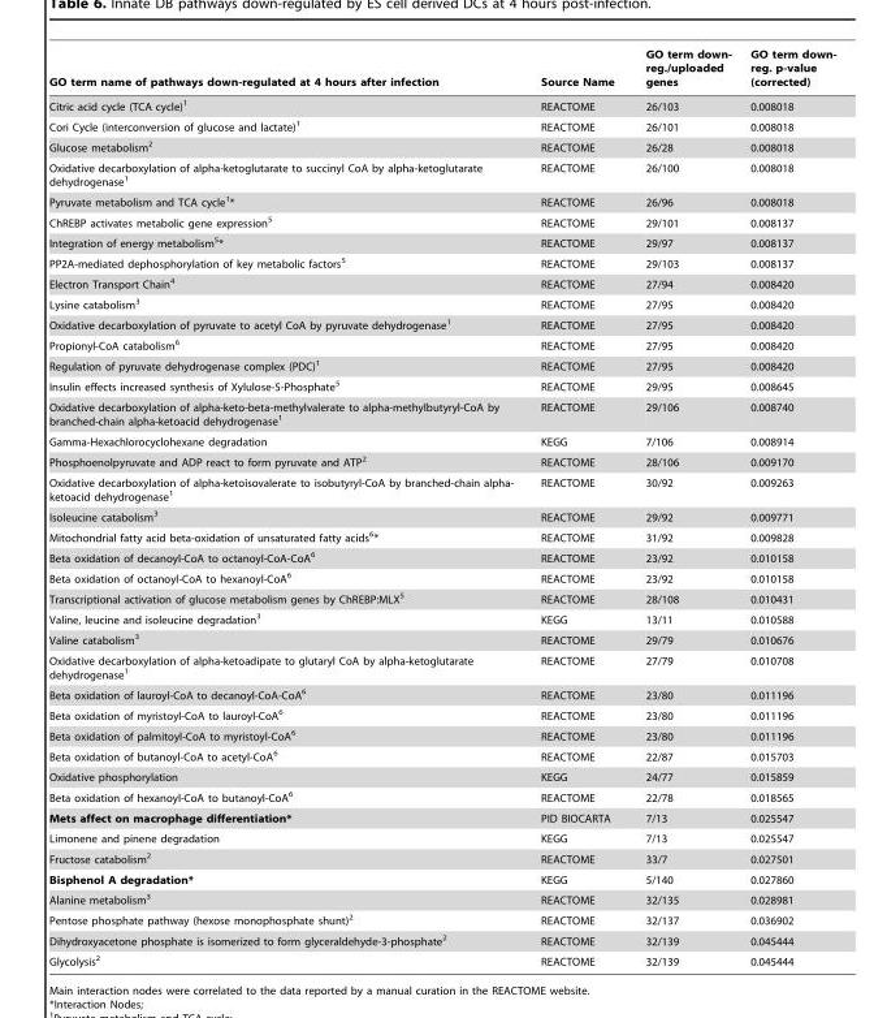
<table><thead><tr><td>GO term name of pathways down-regulated at 4 hours after infection</td><td>Source Name</td><td>GO term down- reg./uploaded genes</td><td>GO term down- reg. p-value (corrected)</td></tr></thead><tbody><tr><td>Citric acid cycle (TCA cycle)<sup>1</sup></td><td>REACTOME</td><td>26/103</td><td>0.008018</td></tr><tr><td>Cori Cycle (interconversion of glucose and lactate)<sup>1</sup></td><td>REACTOME</td><td>26/101</td><td>0.008018</td></tr><tr><td>Glucose metabolism<sup>2</sup></td><td>REACTOME</td><td>26/28</td><td>0.008018</td></tr><tr><td>Oxidative decarboxylation of alpha-ketoglutarate to succinyl CoA by alpha-ketoglutarate dehydrogenase<sup>1</sup></td><td>REACTOME</td><td>26/100</td><td>0.008018</td></tr><tr><td>Pyruvate metabolism and TCA cycle<sup>1</sup>*</td><td>REACTOME</td><td>26/96</td><td>0.008018</td></tr><tr><td>ChREBP activates metabolic gene expression<sup>5</sup></td><td>REACTOME</td><td>29/101</td><td>0.008137</td></tr><tr><td>Integration of energy metabolism<sup>5</sup>*</td><td>REACTOME</td><td>29/97</td><td>0.008137</td></tr><tr><td>PP2A-mediated dephosphorylation of key metabolic factors<sup>5</sup></td><td>REACTOME</td><td>29/103</td><td>0.008137</td></tr><tr><td>Electron Transport Chain<sup>4</sup></td><td>REACTOME</td><td>27/94</td><td>0.008420</td></tr><tr><td>Lysine catabolism<sup>3</sup></td><td>REACTOME</td><td>27/95</td><td>0.008420</td></tr><tr><td>Oxidative decarboxylation of pyruvate to acetyl CoA by pyruvate dehydrogenase<sup>1</sup></td><td>REACTOME</td><td>27/95</td><td>0.008420</td></tr><tr><td>Propionyl-CoA catabolism<sup>6</sup></td><td>REACTOME</td><td>27/95</td><td>0.008420</td></tr><tr><td>Regulation of pyruvate dehydrogenase complex (PDC)<sup>1</sup></td><td>REACTOME</td><td>27/95</td><td>0.008420</td></tr><tr><td>Insulin effects increased synthesis of Xylulose-5-Phosphate<sup>5</sup></td><td>REACTOME</td><td>29/95</td><td>0.008645</td></tr><tr><td>Oxidative decarboxylation of alpha-keto-beta-methylvalerate to alpha-methylbutyryl-CoA by branched-chain alpha-ketoacid dehydrogenase<sup>1</sup></td><td>REACTOME</td><td>29/106</td><td>0.008740</td></tr><tr><td>Gamma-Hexachlorocyclohexane degradation</td><td>KEGG</td><td>7/106</td><td>0.008914</td></tr><tr><td>Phosphoenolpyruvate and ADP react to form pyruvate and ATP<sup>2</sup></td><td>REACTOME</td><td>28/106</td><td>0.009170</td></tr><tr><td>Oxidative decarboxylation of alpha-ketoisovalerate to isobutyryl-CoA by branched-chain alpha- ketoacid dehydrogenase<sup>1</sup></td><td>REACTOME</td><td>30/92</td><td>0.009263</td></tr><tr><td>Isoleucine catabolism<sup>3</sup></td><td>REACTOME</td><td>29/92</td><td>0.009771</td></tr><tr><td>Mitochondrial fatty acid beta-oxidation of unsaturated fatty acids<sup>6</sup>*</td><td>REACTOME</td><td>31/92</td><td>0.009828</td></tr><tr><td>Beta oxidation of decanoyl-CoA to octanoyl-CoA-CoA<sup>6</sup></td><td>REACTOME</td><td>23/92</td><td>0.010158</td></tr><tr><td>Beta oxidation of octanoyl-CoA to hexanoyl-CoA<sup>6</sup></td><td>REACTOME</td><td>23/92</td><td>0.010158</td></tr><tr><td>Transcriptional activation of glucose metabolism genes by ChREBP:MLX<sup>5</sup></td><td>REACTOME</td><td>28/108</td><td>0.010431</td></tr><tr><td>Valine, leucine and isoleucine degradation<sup>3</sup></td><td>KEGG</td><td>13/11</td><td>0.010588</td></tr><tr><td>Valine catabolism<sup>3</sup></td><td>REACTOME</td><td>29/79</td><td>0.010676</td></tr><tr><td>Oxidative decarboxylation of alpha-ketoadipate to glutaryl CoA by alpha-ketoglutarate dehydrogenase<sup>1</sup></td><td>REACTOME</td><td>27/79</td><td>0.010708</td></tr><tr><td>Beta oxidation of lauroyl-CoA to decanoyl-CoA-CoA<sup>6</sup></td><td>REACTOME</td><td>23/80</td><td>0.011196</td></tr><tr><td>Beta oxidation of myristoyl-CoA to lauroyl-CoA<sup>6</sup></td><td>REACTOME</td><td>23/80</td><td>0.011196</td></tr><tr><td>Beta oxidation of palmitoyl-CoA to myristoyl-CoA<sup>6</sup></td><td>REACTOME</td><td>23/80</td><td>0.011196</td></tr><tr><td>Beta oxidation of butanoyl-CoA to acetyl-CoA<sup>6</sup></td><td>REACTOME</td><td>22/87</td><td>0.015703</td></tr><tr><td>Oxidative phosphorylation</td><td>KEGG</td><td>24/77</td><td>0.015859</td></tr><tr><td>Beta oxidation of hexanoyl-CoA to butanoyl-CoA<sup>6</sup></td><td>REACTOME</td><td>22/78</td><td>0.018565</td></tr><tr><td>Mets affect on macrophage differentiation*</td><td>PID BIOCARTA</td><td>7/13</td><td>0.025547</td></tr><tr><td>Limonene and pinene degradation</td><td>KEGG</td><td>7/13</td><td>0.025547</td></tr><tr><td>Fructose catabolism<sup>2</sup></td><td>REACTOME</td><td>33/7</td><td>0.027501</td></tr><tr><td>Bisphenol A degradation*</td><td>KEGG</td><td>5/140</td><td>0.027860</td></tr><tr><td>Alanine metabolism<sup>3</sup></td><td>REACTOME</td><td>32/135</td><td>0.028981</td></tr><tr><td>Pentose phosphate pathway (hexose monophosphate shunt)<sup>2</sup></td><td>REACTOME</td><td>32/137</td><td>0.036902</td></tr><tr><td>Dihydroxyacetone phosphate is isomerized to form glyceraldehyde-3-phosphate<sup>2</sup></td><td>REACTOME</td><td>32/139</td><td>0.045444</td></tr><tr><td>Glycolysis<sup>2</sup></td><td>REACTOME</td><td>32/139</td><td>0.045444</td></tr></tbody></table>